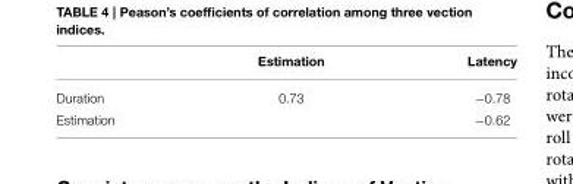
<table><thead><tr><td></td><td>Estimation</td><td>Latency</td></tr></thead><tbody><tr><td>Duration</td><td>0.73</td><td>−0.78</td></tr><tr><td>Estimation</td><td></td><td>−0.62</td></tr></tbody></table>